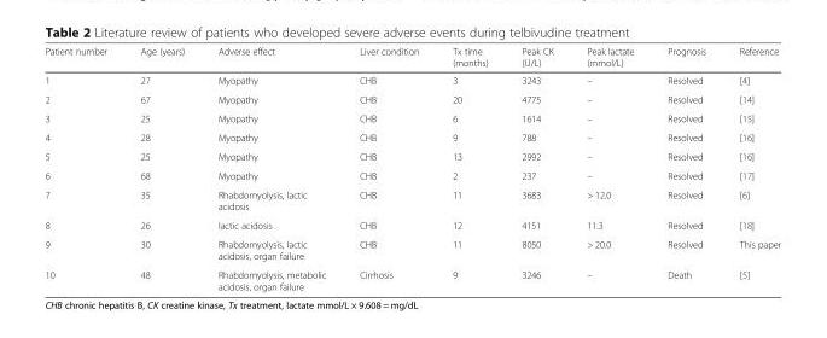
<table><thead><tr><td>Patient number</td><td>Age (years)</td><td>Adverse effect</td><td>Liver condition</td><td>Tx time (months)</td><td>Peak CK (U/L)</td><td>Peak lactate (mmol/L)</td><td>Prognosis</td><td>Reference</td></tr></thead><tbody><tr><td>1</td><td>27</td><td>Myopathy</td><td>CHB</td><td>3</td><td>3243</td><td>–</td><td>Resolved</td><td>[4]</td></tr><tr><td>2</td><td>67</td><td>Myopathy</td><td>CHB</td><td>20</td><td>4775</td><td>–</td><td>Resolved</td><td>[14]</td></tr><tr><td>3</td><td>25</td><td>Myopathy</td><td>CHB</td><td>6</td><td>1614</td><td>–</td><td>Resolved</td><td>[15]</td></tr><tr><td>4</td><td>28</td><td>Myopathy</td><td>CHB</td><td>9</td><td>788</td><td>–</td><td>Resolved</td><td>[16]</td></tr><tr><td>5</td><td>25</td><td>Myopathy</td><td>CHB</td><td>13</td><td>2992</td><td>–</td><td>Resolved</td><td>[16]</td></tr><tr><td>6</td><td>68</td><td>Myopathy</td><td>CHB</td><td>2</td><td>237</td><td>–</td><td>Resolved</td><td>[17]</td></tr><tr><td>7</td><td>35</td><td>Rhabdomyolysis, lactic acidosis</td><td>CHB</td><td>11</td><td>3683</td><td>&gt; 12.0</td><td>Resolved</td><td>[6]</td></tr><tr><td>8</td><td>26</td><td>lactic acidosis</td><td>CHB</td><td>12</td><td>4151</td><td>11.3</td><td>Resolved</td><td>[18]</td></tr><tr><td>9</td><td>30</td><td>Rhabdomyolysis, lactic acidosis, organ failure</td><td>CHB</td><td>11</td><td>8050</td><td>&gt; 20.0</td><td>Resolved</td><td>This paper</td></tr><tr><td>10</td><td>48</td><td>Rhabdomyolysis, metabolic acidosis, organ failure</td><td>Cirrhosis</td><td>9</td><td>3246</td><td>–</td><td>Death</td><td>[5]</td></tr></tbody></table>